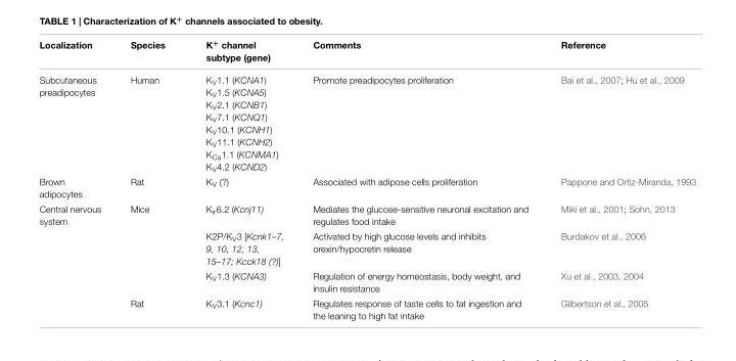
<table><thead><tr><td>Localization</td><td>Species</td><td>K<sup>+</sup> channel subtype (gene)</td><td>Comments</td><td>Reference</td></tr></thead><tbody><tr><td>Subcutaneous preadipocytes</td><td>Human</td><td>K<sub>V</sub>1.1 (KCNA1) K<sub>V</sub>1.5 (KCNA5) K<sub>V</sub>2.1 (KCNB1) K<sub>V</sub>7.1 (KCNQ1) K<sub>V</sub>10.1 (KCNH1) K<sub>V</sub>11.1 (KCNH2) K<sub>Ca</sub>1.1 (KCNMA1) K<sub>V</sub>4.2 (KCND2)</td><td>Promote preadipocytes proliferation</td><td>Bai et al., 2007; Hu et al., 2009</td></tr><tr><td>Brown adipocytes</td><td>Rat</td><td>K<sub>V</sub> (?)</td><td>Associated with adipose cells proliferation</td><td>Pappone and Ortiz-Miranda, 1993</td></tr><tr><td rowspan="4">Central nervous system</td><td>Mice</td><td>K<sub>ir</sub>6.2 (Kcnj11)</td><td>Mediates the glucose-sensitive neuronal excitation and regulates food intake</td><td>Miki et al., 2001; Sohn, 2013</td></tr><tr><td></td><td>K2P/K<sub>V</sub>3 [Kcnk1–7, 9, 10, 12, 13, 15–17; Kcck18 (?)]</td><td>Activated by high glucose levels and inhibits orexin/hypocretin release</td><td>Burdakov et al., 2006</td></tr><tr><td></td><td>K<sub>V</sub>1.3 (KCNA3)</td><td>Regulation of energy homeostasis, body weight, and insulin resistance</td><td>Xu et al., 2003, 2004</td></tr><tr><td>Rat</td><td>K<sub>V</sub>3.1 (Kcnc1)</td><td>Regulates response of taste cells to fat ingestion and the leaning to high fat intake</td><td>Gilbertson et al., 2005</td></tr></tbody></table>